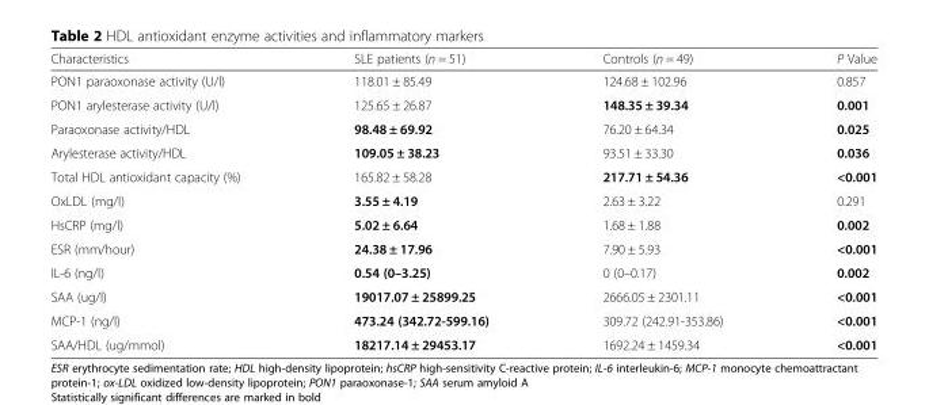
<table><thead><tr><td>Characteristics</td><td>SLE patients (n = 51)</td><td>Controls (n = 49)</td><td>P Value</td></tr></thead><tbody><tr><td>PON1 paraoxonase activity (U/l)</td><td>118.01 ± 85.49</td><td>124.68 ± 102.96</td><td>0.857</td></tr><tr><td>PON1 arylesterase activity (U/l)</td><td>125.65 ± 26.87</td><td>148.35 ± 39.34</td><td>0.001</td></tr><tr><td>Paraoxonase activity/HDL</td><td>98.48 ± 69.92</td><td>76.20 ± 64.34</td><td>0.025</td></tr><tr><td>Arylesterase activity/HDL</td><td>109.05 ± 38.23</td><td>93.51 ± 33.30</td><td>0.036</td></tr><tr><td>Total HDL antioxidant capacity (%)</td><td>165.82 ± 58.28</td><td>217.71 ± 54.36</td><td>&lt;0.001</td></tr><tr><td>OxLDL (mg/l)</td><td>3.55 ± 4.19</td><td>2.63 ± 3.22</td><td>0.291</td></tr><tr><td>HsCRP (mg/l)</td><td>5.02 ± 6.64</td><td>1.68 ± 1.88</td><td>0.002</td></tr><tr><td>ESR (mm/hour)</td><td>24.38 ± 17.96</td><td>7.90 ± 5.93</td><td>&lt;0.001</td></tr><tr><td>IL-6 (ng/l)</td><td>0.54 (0–3.25)</td><td>0 (0–0.17)</td><td>0.002</td></tr><tr><td>SAA (ug/l)</td><td>19017.07 ± 25899.25</td><td>2666.05 ± 2301.11</td><td>&lt;0.001</td></tr><tr><td>MCP-1 (ng/l)</td><td>473.24 (342.72-599.16)</td><td>309.72 (242.91-353.86)</td><td>&lt;0.001</td></tr><tr><td>SAA/HDL (ug/mmol)</td><td>18217.14 ± 29453.17</td><td>1692.24 ± 1459.34</td><td>&lt;0.001</td></tr></tbody></table>